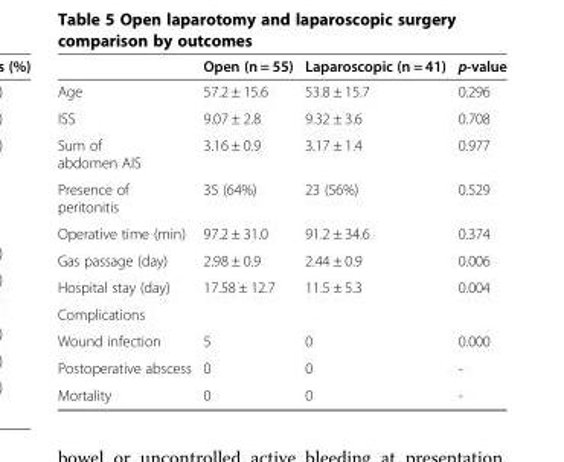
<table><thead><tr><td></td><td>Open (n = 55)</td><td>Laparoscopic (n = 41)</td><td>p-value</td></tr></thead><tbody><tr><td>Age</td><td>57.2 ± 15.6</td><td>53.8 ± 15.7</td><td>0.296</td></tr><tr><td>ISS</td><td>9.07 ± 2.8</td><td>9.32 ± 3.6</td><td>0.708</td></tr><tr><td>Sum of abdomen AIS</td><td>3.16 ± 0.9</td><td>3.17 ± 1.4</td><td>0.977</td></tr><tr><td>Presence of peritonitis</td><td>35 (64%)</td><td>23 (56%)</td><td>0.529</td></tr><tr><td>Operative time (min)</td><td>97.2 ± 31.0</td><td>91.2 ± 34.6</td><td>0.374</td></tr><tr><td>Gas passage (day)</td><td>2.98 ± 0.9</td><td>2.44 ± 0.9</td><td>0.006</td></tr><tr><td>Hospital stay (day)</td><td>17.58 ± 12.7</td><td>11.5 ± 5.3</td><td>0.004</td></tr><tr><td colspan="4">Complications</td></tr><tr><td>Wound infection</td><td>5</td><td>0</td><td>0.000</td></tr><tr><td>Postoperative abscess</td><td>0</td><td>0</td><td>-</td></tr><tr><td>Mortality</td><td>0</td><td>0</td><td>-</td></tr></tbody></table>